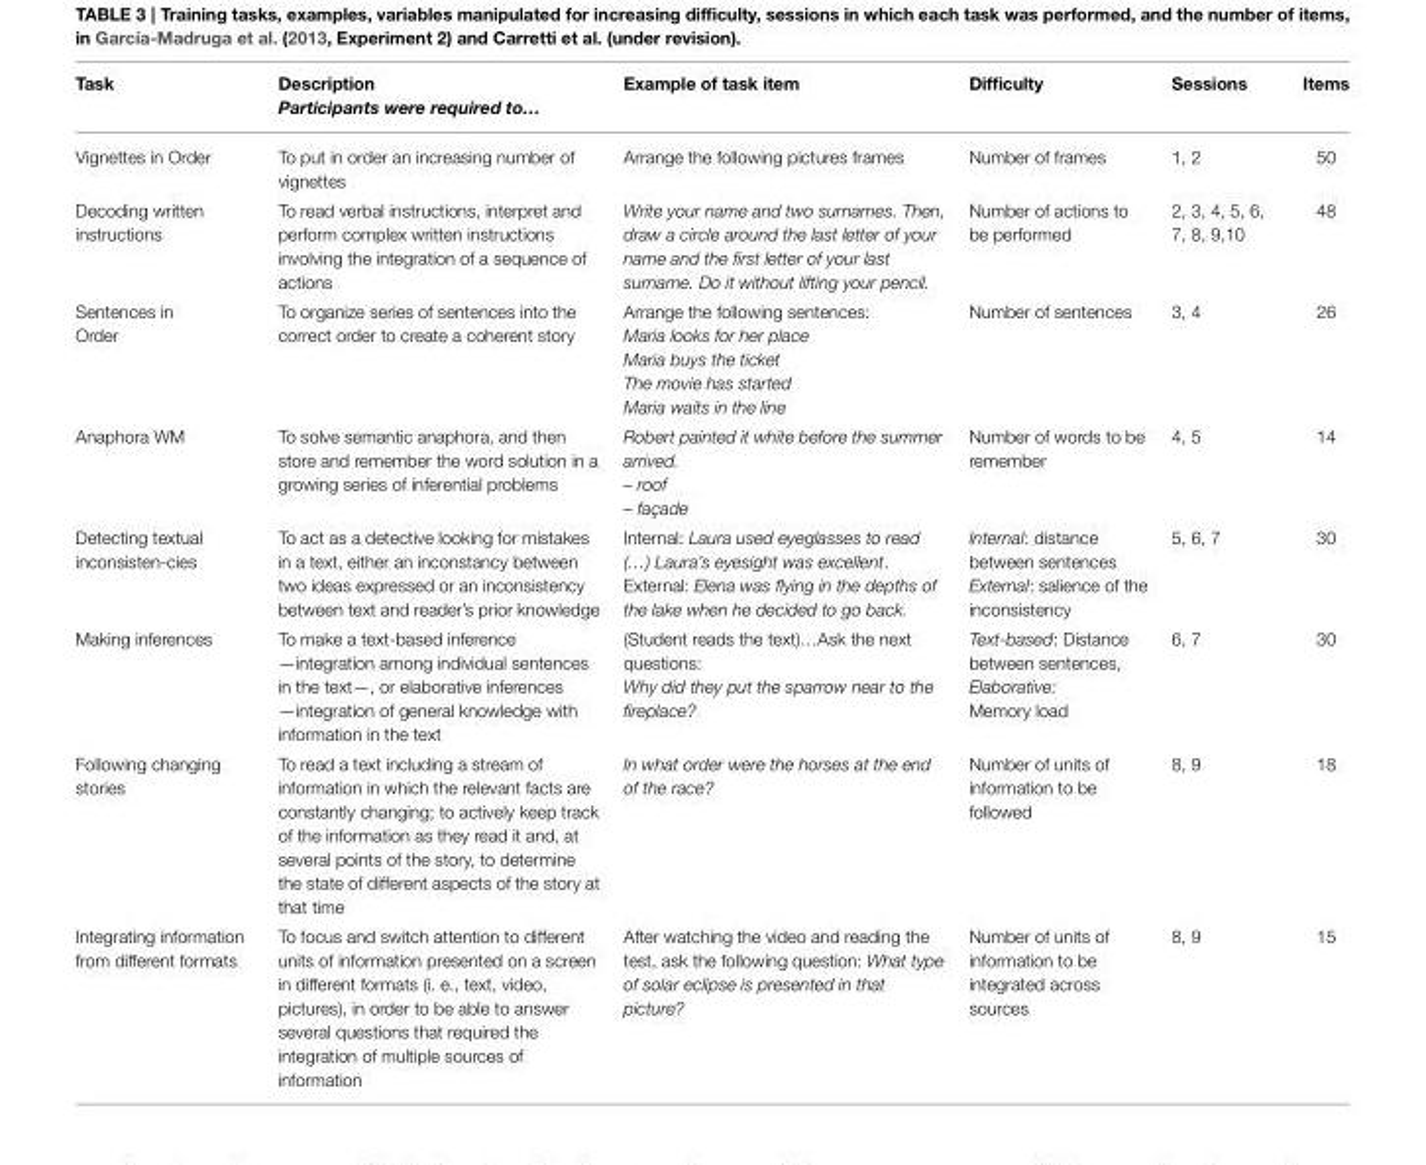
<table><thead><tr><td>Task</td><td>Description Participants were required to…</td><td>Example of task item</td><td>Difficulty</td><td>Sessions</td><td>Items</td></tr></thead><tbody><tr><td>Vignettes in Order</td><td>To put in order an increasing number of vignettes</td><td>Arrange the following pictures frames</td><td>Number of frames</td><td>1, 2</td><td>50</td></tr><tr><td>Decoding written instructions</td><td>To read verbal instructions, interpret and perform complex written instructions involving the integration of a sequence of actions</td><td>Write your name and two surnames. Then, draw a circle around the last letter of your name and the first letter of your last surname. Do it without lifting your pencil.</td><td>Number of actions to be performed</td><td>2, 3, 4, 5, 6, 7, 8, 9,10</td><td>48</td></tr><tr><td>Sentences in Order</td><td>To organize series of sentences into the correct order to create a coherent story</td><td>Arrange the following sentences: Maria looks for her place Maria buys the ticket The movie has started Maria waits in the line</td><td>Number of sentences</td><td>3, 4</td><td>26</td></tr><tr><td>Anaphora WM</td><td>To solve semantic anaphora, and then store and remember the word solution in a growing series of inferential problems</td><td>Robert painted it white before the summer arrived. – roof – façade</td><td>Number of words to be remember</td><td>4, 5</td><td>14</td></tr><tr><td>Detecting textual inconsisten-cies</td><td>To act as a detective looking for mistakes in a text, either an inconstancy between two ideas expressed or an inconsistency between text and reader’s prior knowledge</td><td>Internal: Laura used eyeglasses to read (…) Laura’s eyesight was excellent. External: Elena was flying in the depths of the lake when he decided to go back.</td><td>Internal: distance between sentences External: salience of the inconsistency</td><td>5, 6, 7</td><td>30</td></tr><tr><td>Making inferences</td><td>To make a text-based inference —integration among individual sentences in the text—, or elaborative inferences —integration of general knowledge with information in the text</td><td>(Student reads the text)…Ask the next questions: Why did they put the sparrow near to the fireplace?</td><td>Text-based: Distance between sentences, Elaborative: Memory load</td><td>6, 7</td><td>30</td></tr><tr><td>Following changing stories</td><td>To read a text including a stream of information in which the relevant facts are constantly changing; to actively keep track of the information as they read it and, at several points of the story, to determine the state of different aspects of the story at that time</td><td>In what order were the horses at the end of the race?</td><td>Number of units of information to be followed</td><td>8, 9</td><td>18</td></tr><tr><td>Integrating information from different formats</td><td>To focus and switch attention to different units of information presented on a screen in different formats (i. e., text, video, pictures), in order to be able to answer several questions that required the integration of multiple sources of information</td><td>After watching the video and reading the test, ask the following question: What type of solar eclipse is presented in that picture?</td><td>Number of units of information to be integrated across sources</td><td>8, 9</td><td>15</td></tr></tbody></table>